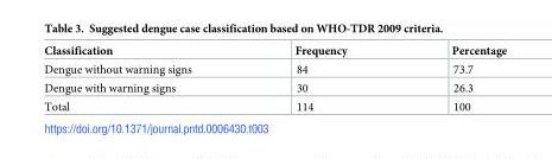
<table><thead><tr><td>Classification</td><td>Frequency</td><td>Percentage</td></tr></thead><tbody><tr><td>Dengue without warning signs</td><td>84</td><td>73.7</td></tr><tr><td>Dengue with warning signs</td><td>30</td><td>26.3</td></tr><tr><td>Total</td><td>114</td><td>100</td></tr></tbody></table>